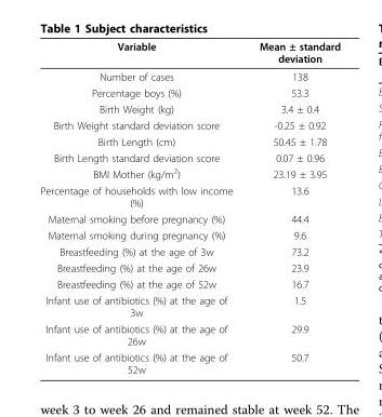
<table><thead><tr><td>Variable</td><td>Mean ± standard deviation</td></tr></thead><tbody><tr><td>Number of cases</td><td>138</td></tr><tr><td>Percentage boys (%)</td><td>53.3</td></tr><tr><td>Birth Weight (kg)</td><td>3.4 ± 0.4</td></tr><tr><td>Birth Weight standard deviation score</td><td>-0.25 ± 0.92</td></tr><tr><td>Birth Length (cm)</td><td>50.45 ± 1.78</td></tr><tr><td>Birth Length standard deviation score</td><td>0.07 ± 0.96</td></tr><tr><td>BMI Mother (kg/m<sup>2</sup>)</td><td>23.19 ± 3.95</td></tr><tr><td>Percentage of households with low income (%)</td><td>13.6</td></tr><tr><td>Maternal smoking before pregnancy (%)</td><td>44.4</td></tr><tr><td>Maternal smoking during pregnancy (%)</td><td>9.6</td></tr><tr><td>Breastfeeding (%) at the age of 3w</td><td>73.2</td></tr><tr><td>Breastfeeding (%) at the age of 26w</td><td>23.9</td></tr><tr><td>Breastfeeding (%) at the age of 52w</td><td>16.7</td></tr><tr><td>Infant use of antibiotics (%) at the age of 3w</td><td>1.5</td></tr><tr><td>Infant use of antibiotics (%) at the age of 26w</td><td>29.9</td></tr><tr><td>Infant use of antibiotics (%) at the age of 52w</td><td>50.7</td></tr></tbody></table>